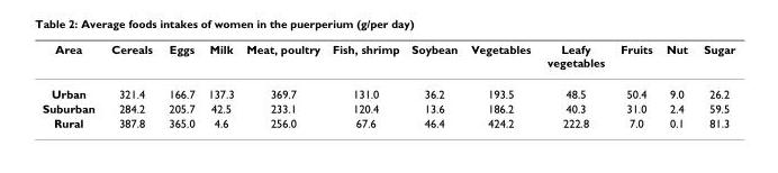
<table><thead><tr><td>Area</td><td>Cereals</td><td>Eggs</td><td>Milk</td><td>Meat, poultry</td><td>Fish, shrimp</td><td>Soybean</td><td>Vegetables</td><td>Leafy vegetables</td><td>Fruits</td><td>Nut</td><td>Sugar</td></tr></thead><tbody><tr><td>Urban</td><td>321.4</td><td>166.7</td><td>137.3</td><td>369.7</td><td>131.0</td><td>36.2</td><td>193.5</td><td>48.5</td><td>50.4</td><td>9.0</td><td>26.2</td></tr><tr><td>Suburban</td><td>284.2</td><td>205.7</td><td>42.5</td><td>233.1</td><td>120.4</td><td>13.6</td><td>186.2</td><td>40.3</td><td>31.0</td><td>2.4</td><td>59.5</td></tr><tr><td>Rural</td><td>387.8</td><td>365.0</td><td>4.6</td><td>256.0</td><td>67.6</td><td>46.4</td><td>424.2</td><td>222.8</td><td>7.0</td><td>0.1</td><td>81.3</td></tr></tbody></table>